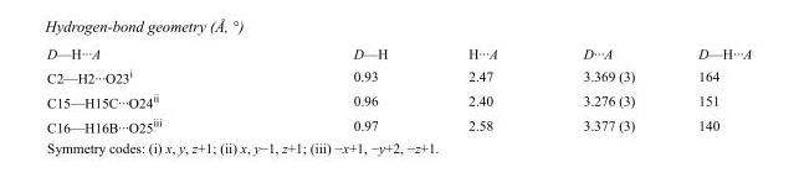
<table><tbody><tr><td>D—H···A</td><td>D—H</td><td>H···A</td><td>D···A</td><td>D—H···A</td></tr><tr><td>C2—H2···O23<sup>i</sup></td><td>0.93</td><td>2.47</td><td>3.369 (3)</td><td>164</td></tr><tr><td>C15—H15C···O24<sup>ii</sup></td><td>0.96</td><td>2.40</td><td>3.276 (3)</td><td>151</td></tr><tr><td>C16—H16B···O25<sup>iii</sup></td><td>0.97</td><td>2.58</td><td>3.377 (3)</td><td>140</td></tr></tbody></table>